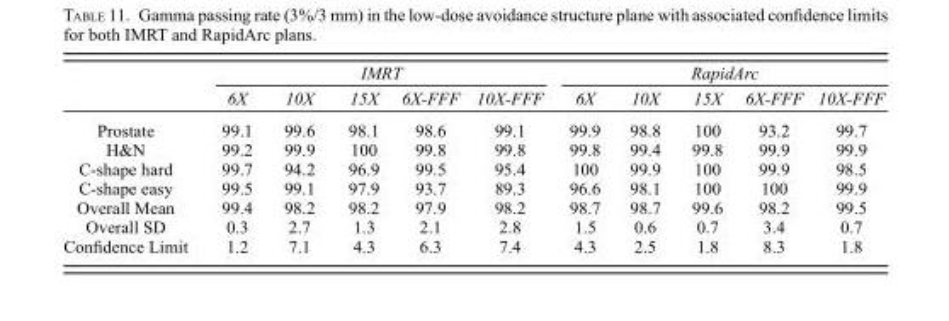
<table><thead><tr><td rowspan="2"></td><td colspan="5">IMRT</td><td colspan="5">RapidArc</td></tr><tr><td>6X</td><td>10X</td><td>15X</td><td>6X-FFF</td><td>10X-FFF</td><td>6X</td><td>10X</td><td>15X</td><td>6X-FFF</td><td>10X-FFF</td></tr></thead><tbody><tr><td>Prostate</td><td>99.1</td><td>99.6</td><td>98.1</td><td>98.6</td><td>99.1</td><td>99.9</td><td>98.8</td><td>100</td><td>93.2</td><td>99.7</td></tr><tr><td>H&amp;N</td><td>99.2</td><td>99.9</td><td>100</td><td>99.8</td><td>99.8</td><td>99.8</td><td>99.4</td><td>99.8</td><td>99.9</td><td>99.9</td></tr><tr><td>C-shape hard</td><td>99.7</td><td>94.2</td><td>96.9</td><td>99.5</td><td>95.4</td><td>100</td><td>99.9</td><td>100</td><td>99.9</td><td>98.5</td></tr><tr><td>C-shape easy</td><td>99.5</td><td>99.1</td><td>97.9</td><td>93.7</td><td>89.3</td><td>96.6</td><td>98.1</td><td>100</td><td>100</td><td>99.9</td></tr><tr><td>Overall Mean</td><td>99.4</td><td>98.2</td><td>98.2</td><td>97.9</td><td>98.2</td><td>98.7</td><td>98.7</td><td>99.6</td><td>98.2</td><td>99.5</td></tr><tr><td>Overall SD</td><td>0.3</td><td>2.7</td><td>1.3</td><td>2.1</td><td>2.8</td><td>1.5</td><td>0.6</td><td>0.7</td><td>3.4</td><td>0.7</td></tr><tr><td>Confidence Limit</td><td>1.2</td><td>7.1</td><td>4.3</td><td>6.3</td><td>7.4</td><td>4.3</td><td>2.5</td><td>1.8</td><td>8.3</td><td>1.8</td></tr></tbody></table>